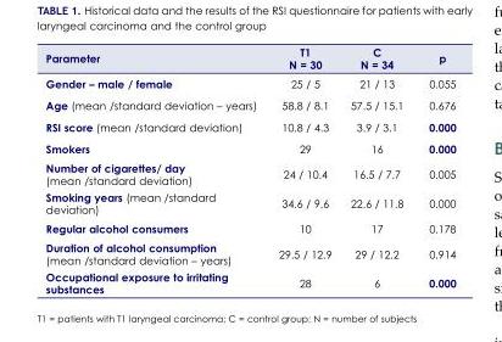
<table><thead><tr><td>Parameter</td><td>T1 N = 30</td><td>C N = 34</td><td>p</td></tr></thead><tbody><tr><td>Gender – male / female</td><td>25 / 5</td><td>21 / 13</td><td>0.055</td></tr><tr><td>Age (mean /standard deviation – years)</td><td>58.8 / 8.1</td><td>57.5 / 15.1</td><td>0.676</td></tr><tr><td>RSI score (mean /standard deviation)</td><td>10.8 / 4.3</td><td>3.9 / 3.1</td><td>0.000</td></tr><tr><td>Smokers</td><td>29</td><td>16</td><td>0.000</td></tr><tr><td>Number of cigarettes/ day (mean /standard deviation)</td><td>24 / 10.4</td><td>16.5 / 7.7</td><td>0.005</td></tr><tr><td>Smoking years (mean /standard deviation)</td><td>34.6 / 9.6</td><td>22.6 / 11.8</td><td>0.000</td></tr><tr><td>Regular alcohol consumers</td><td>10</td><td>17</td><td>0.178</td></tr><tr><td>Duration of alcohol consumption (mean /standard deviation – years)</td><td>29.5 / 12.9</td><td>29 / 12.2</td><td>0.914</td></tr><tr><td>Occupational exposure to irritating substances</td><td>28</td><td>6</td><td>0.000</td></tr></tbody></table>